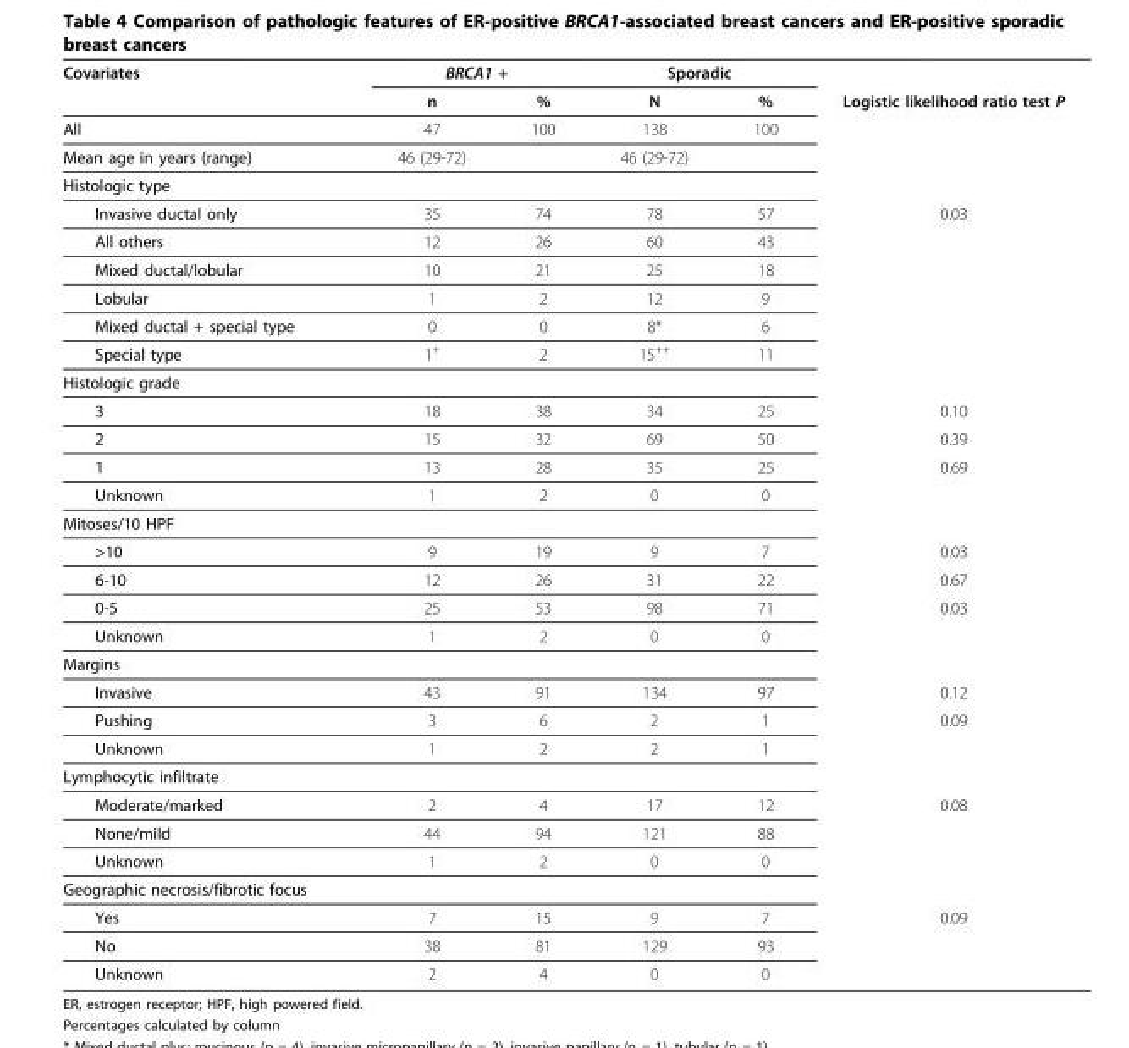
<table><tbody><tr><td rowspan="2">Covariates</td><td colspan="2">BRCA1 +</td><td colspan="2">Sporadic</td><td></td></tr><tr><td>n</td><td>%</td><td>N</td><td>%</td><td>Logistic likelihood ratio test P</td></tr><tr><td>All</td><td>47</td><td>100</td><td>138</td><td>100</td><td></td></tr><tr><td>Mean age in years (range)</td><td>46 (29-72)</td><td></td><td>46 (29-72)</td><td></td><td></td></tr><tr><td colspan="6">Histologic type</td></tr><tr><td>Invasive ductal only</td><td>35</td><td>74</td><td>78</td><td>57</td><td>0.03</td></tr><tr><td>All others</td><td>12</td><td>26</td><td>60</td><td>43</td><td></td></tr><tr><td>Mixed ductal/lobular</td><td>10</td><td>21</td><td>25</td><td>18</td><td></td></tr><tr><td>Lobular</td><td>1</td><td>2</td><td>12</td><td>9</td><td></td></tr><tr><td>Mixed ductal + special type</td><td>0</td><td>0</td><td>8*</td><td>6</td><td></td></tr><tr><td>Special type</td><td>1<sup>+</sup></td><td>2</td><td>15<sup>++</sup></td><td>11</td><td></td></tr><tr><td colspan="6">Histologic grade</td></tr><tr><td>3</td><td>18</td><td>38</td><td>34</td><td>25</td><td>0.10</td></tr><tr><td>2</td><td>15</td><td>32</td><td>69</td><td>50</td><td>0.39</td></tr><tr><td>1</td><td>13</td><td>28</td><td>35</td><td>25</td><td>0.69</td></tr><tr><td>Unknown</td><td>1</td><td>2</td><td>0</td><td>0</td><td></td></tr><tr><td colspan="6">Mitoses/10 HPF</td></tr><tr><td>&gt;10</td><td>9</td><td>19</td><td>9</td><td>7</td><td>0.03</td></tr><tr><td>6-10</td><td>12</td><td>26</td><td>31</td><td>22</td><td>0.67</td></tr><tr><td>0-5</td><td>25</td><td>53</td><td>98</td><td>71</td><td>0.03</td></tr><tr><td>Unknown</td><td>1</td><td>2</td><td>0</td><td>0</td><td></td></tr><tr><td colspan="6">Margins</td></tr><tr><td>Invasive</td><td>43</td><td>91</td><td>134</td><td>97</td><td>0.12</td></tr><tr><td>Pushing</td><td>3</td><td>6</td><td>2</td><td>1</td><td>0.09</td></tr><tr><td>Unknown</td><td>1</td><td>2</td><td>2</td><td>1</td><td></td></tr><tr><td colspan="6">Lymphocytic infiltrate</td></tr><tr><td>Moderate/marked</td><td>2</td><td>4</td><td>17</td><td>12</td><td>0.08</td></tr><tr><td>None/mild</td><td>44</td><td>94</td><td>121</td><td>88</td><td></td></tr><tr><td>Unknown</td><td>1</td><td>2</td><td>0</td><td>0</td><td></td></tr><tr><td colspan="6">Geographic necrosis/fibrotic focus</td></tr><tr><td>Yes</td><td>7</td><td>15</td><td>9</td><td>7</td><td>0.09</td></tr><tr><td>No</td><td>38</td><td>81</td><td>129</td><td>93</td><td></td></tr><tr><td>Unknown</td><td>2</td><td>4</td><td>0</td><td>0</td><td></td></tr></tbody></table>